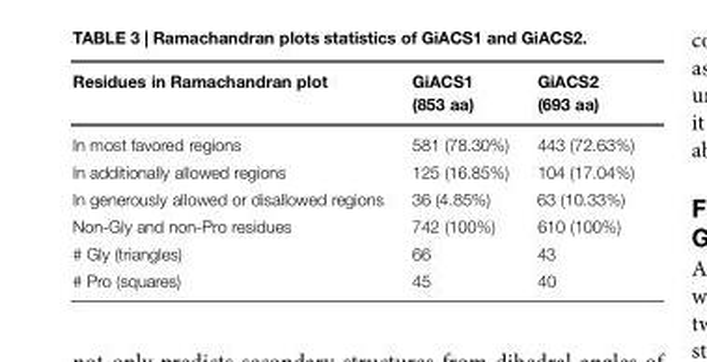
<table><thead><tr><td>Residues in Ramachandran plot</td><td>GiACS1 (853 aa)</td><td>GiACS2 (693 aa)</td></tr></thead><tbody><tr><td>In most favored regions</td><td>581 (78.30%)</td><td>443 (72.63%)</td></tr><tr><td>In additionally allowed regions</td><td>125 (16.85%)</td><td>104 (17.04%)</td></tr><tr><td>In generously allowed or disallowed regions</td><td>36 (4.85%)</td><td>63 (10.33%)</td></tr><tr><td>Non-Gly and non-Pro residues</td><td>742 (100%)</td><td>610 (100%)</td></tr><tr><td># Gly (triangles)</td><td>66</td><td>43</td></tr><tr><td># Pro (squares)</td><td>45</td><td>40</td></tr></tbody></table>